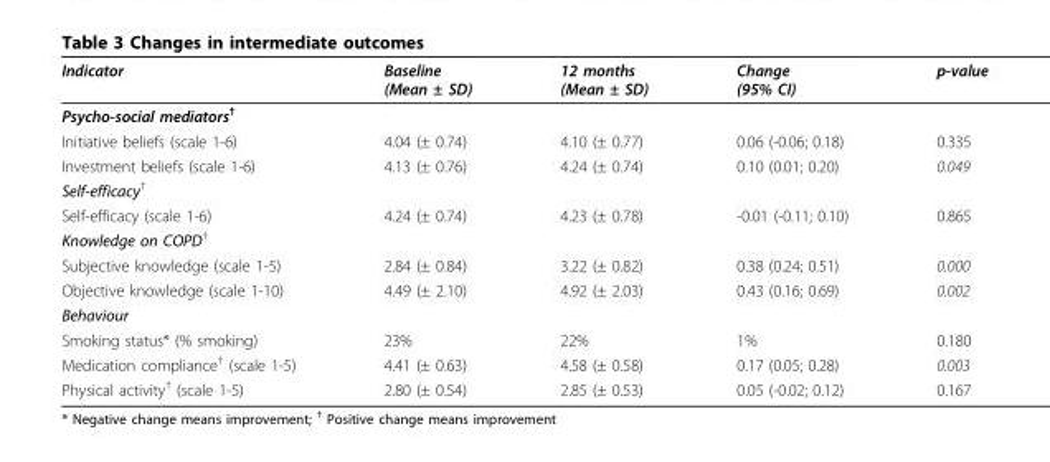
<table><thead><tr><td>Indicator</td><td>Baseline (Mean ± SD)</td><td>12 months (Mean ± SD)</td><td>Change (95% CI)</td><td>p-value</td></tr></thead><tbody><tr><td colspan="5">Psycho-social mediators<sup>†</sup></td></tr><tr><td>Initiative beliefs (scale 1-6)</td><td>4.04 (± 0.74)</td><td>4.10 (± 0.77)</td><td>0.06 (-0.06; 0.18)</td><td>0.335</td></tr><tr><td>Investment beliefs (scale 1-6)</td><td>4.13 (± 0.76)</td><td>4.24 (± 0.74)</td><td>0.10 (0.01; 0.20)</td><td>0.049</td></tr><tr><td colspan="5">Self-efficacy<sup>†</sup></td></tr><tr><td>Self-efficacy (scale 1-6)</td><td>4.24 (± 0.74)</td><td>4.23 (± 0.78)</td><td>-0.01 (-0.11; 0.10)</td><td>0.865</td></tr><tr><td colspan="5">Knowledge on COPD<sup>†</sup></td></tr><tr><td>Subjective knowledge (scale 1-5)</td><td>2.84 (± 0.84)</td><td>3.22 (± 0.82)</td><td>0.38 (0.24; 0.51)</td><td>0.000</td></tr><tr><td>Objective knowledge (scale 1-10)</td><td>4.49 (± 2.10)</td><td>4.92 (± 2.03)</td><td>0.43 (0.16; 0.69)</td><td>0.002</td></tr><tr><td colspan="5">Behaviour</td></tr><tr><td>Smoking status* (% smoking)</td><td>23%</td><td>22%</td><td>1%</td><td>0.180</td></tr><tr><td>Medication compliance<sup>†</sup> (scale 1-5)</td><td>4.41 (± 0.63)</td><td>4.58 (± 0.58)</td><td>0.17 (0.05; 0.28)</td><td>0.003</td></tr><tr><td>Physical activity<sup>†</sup> (scale 1-5)</td><td>2.80 (± 0.54)</td><td>2.85 (± 0.53)</td><td>0.05 (-0.02; 0.12)</td><td>0.167</td></tr></tbody></table>